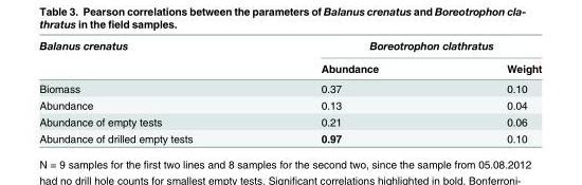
<table><thead><tr><td rowspan="2">Balanus crenatus</td><td colspan="2">Boreotrophon clathratus</td></tr><tr><td>Abundance</td><td>Weight</td></tr></thead><tbody><tr><td>Biomass</td><td>0.37</td><td>0.10</td></tr><tr><td>Abundance</td><td>0.13</td><td>0.04</td></tr><tr><td>Abundance of empty tests</td><td>0.21</td><td>0.06</td></tr><tr><td>Abundance of drilled empty tests</td><td>0.97</td><td>0.10</td></tr></tbody></table>